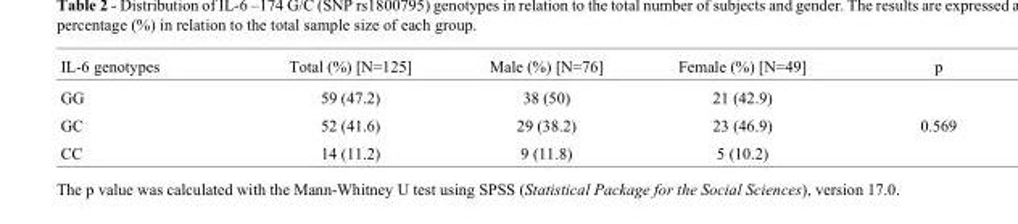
<table><thead><tr><td>IL-6 genotypes</td><td>Total (%) [N=125]</td><td>Male (%) [N=76]</td><td>Female (%) [N=49]</td><td>p</td></tr></thead><tbody><tr><td>GG</td><td>59 (47.2)</td><td>38 (50)</td><td>21 (42.9)</td><td></td></tr><tr><td>GC</td><td>52 (41.6)</td><td>29 (38.2)</td><td>23 (46.9)</td><td>0.569</td></tr><tr><td>CC</td><td>14 (11.2)</td><td>9 (11.8)</td><td>5 (10.2)</td><td></td></tr></tbody></table>